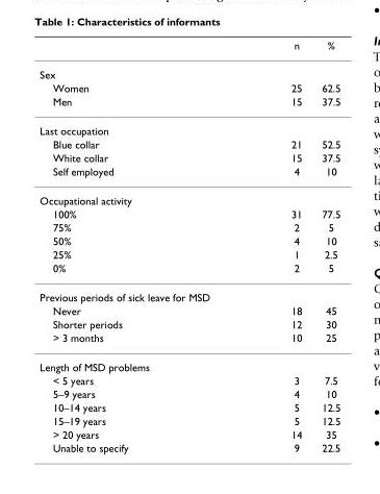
<table><thead><tr><td></td><td>n</td><td>%</td></tr></thead><tbody><tr><td colspan="3">Sex</td></tr><tr><td>Women</td><td>25</td><td>62.5</td></tr><tr><td>Men</td><td>15</td><td>37.5</td></tr><tr><td colspan="3">Last occupation</td></tr><tr><td>Blue collar</td><td>21</td><td>52.5</td></tr><tr><td>White collar</td><td>15</td><td>37.5</td></tr><tr><td>Self employed</td><td>4</td><td>10</td></tr><tr><td colspan="3">Occupational activity</td></tr><tr><td>100%</td><td>31</td><td>77.5</td></tr><tr><td>75%</td><td>2</td><td>5</td></tr><tr><td>50%</td><td>4</td><td>10</td></tr><tr><td>25%</td><td>1</td><td>2.5</td></tr><tr><td>0%</td><td>2</td><td>5</td></tr><tr><td colspan="3">Previous periods of sick leave for MSD</td></tr><tr><td>Never</td><td>18</td><td>45</td></tr><tr><td>Shorter periods</td><td>12</td><td>30</td></tr><tr><td>&gt; 3 months</td><td>10</td><td>25</td></tr><tr><td colspan="3">Length of MSD problems</td></tr><tr><td>&lt; 5 years</td><td>3</td><td>7.5</td></tr><tr><td>5–9 years</td><td>4</td><td>10</td></tr><tr><td>10–14 years</td><td>5</td><td>12.5</td></tr><tr><td>15–19 years</td><td>5</td><td>12.5</td></tr><tr><td>&gt; 20 years</td><td>14</td><td>35</td></tr><tr><td>Unable to specify</td><td>9</td><td>22.5</td></tr></tbody></table>